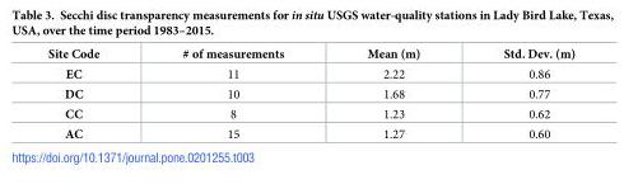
<table><thead><tr><td>Site Code</td><td># of measurements</td><td>Mean (m)</td><td>Std. Dev. (m)</td></tr></thead><tbody><tr><td>EC</td><td>11</td><td>2.22</td><td>0.86</td></tr><tr><td>DC</td><td>10</td><td>1.68</td><td>0.77</td></tr><tr><td>CC</td><td>8</td><td>1.23</td><td>0.62</td></tr><tr><td>AC</td><td>15</td><td>1.27</td><td>0.60</td></tr></tbody></table>